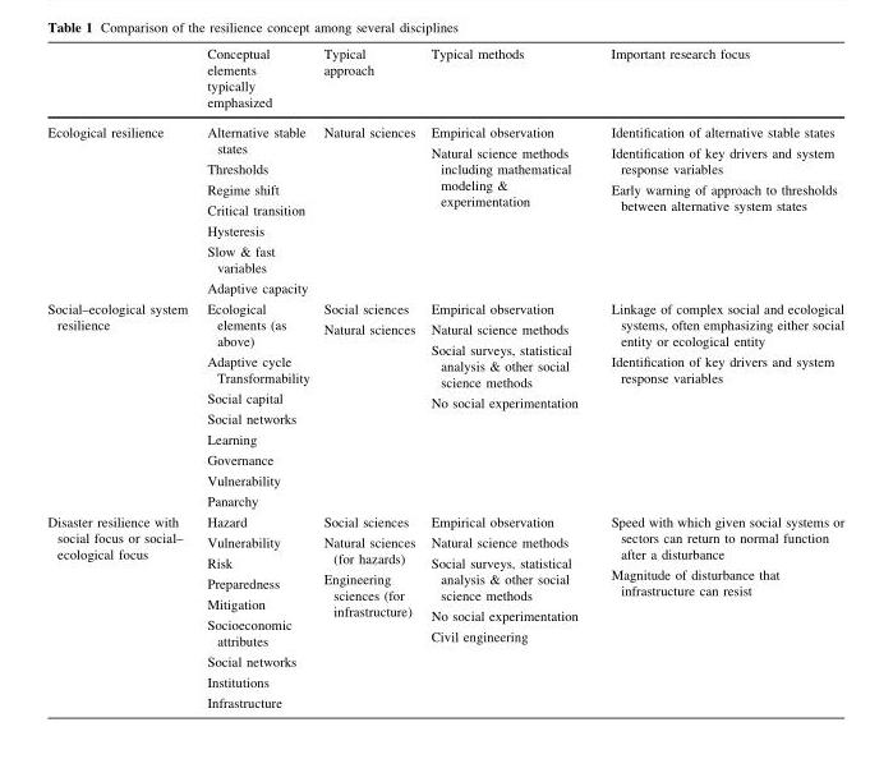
<table><thead><tr><td></td><td>Conceptual elements typically emphasized</td><td>Typical approach</td><td>Typical methods</td><td>Important research focus</td></tr></thead><tbody><tr><td>Ecological resilience</td><td>Alternative stable states Thresholds Regime shift Critical transition Hysteresis Slow &amp; fast variables Adaptive capacity</td><td>Natural sciences</td><td>Empirical observation Natural science methods including mathematical modeling &amp; experimentation</td><td>Identification of alternative stable states Identification of key drivers and system response variables Early warning of approach to thresholds between alternative system states</td></tr><tr><td>Social–ecological system resilience</td><td>Ecological elements (as above) Adaptive cycle Transformability Social capital Social networks Learning Governance Vulnerability Panarchy</td><td>Social sciences Natural sciences</td><td>Empirical observation Natural science methods Social surveys, statistical analysis &amp; other social science methods No social experimentation</td><td>Linkage of complex social and ecological systems, often emphasizing either social entity or ecological entity Identification of key drivers and system response variables</td></tr><tr><td>Disaster resilience with social focus or social– ecological focus</td><td>Hazard Vulnerability Risk Preparedness Mitigation Socioeconomic attributes Social networks Institutions Infrastructure</td><td>Social sciences Natural sciences (for hazards) Engineering sciences (for infrastructure)</td><td>Empirical observation Natural science methods Social surveys, statistical analysis &amp; other social science methods No social experimentation Civil engineering</td><td>Speed with which given social systems or sectors can return to normal function after a disturbance Magnitude of disturbance that infrastructure can resist</td></tr></tbody></table>